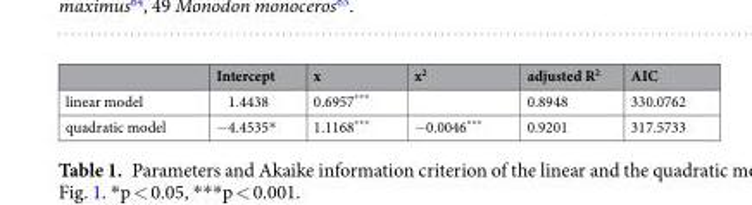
<table><thead><tr><td></td><td>Intercept</td><td>x</td><td>x<sup>2</sup></td><td>adjusted R<sup>2</sup></td><td>AIC</td></tr></thead><tbody><tr><td>linear model</td><td>1.4438</td><td>0.6957***</td><td></td><td>0.8948</td><td>330.0762</td></tr><tr><td>quadratic model</td><td>−4.4535*</td><td>1.1168***</td><td>−0.0046***</td><td>0.9201</td><td>317.5733</td></tr></tbody></table>